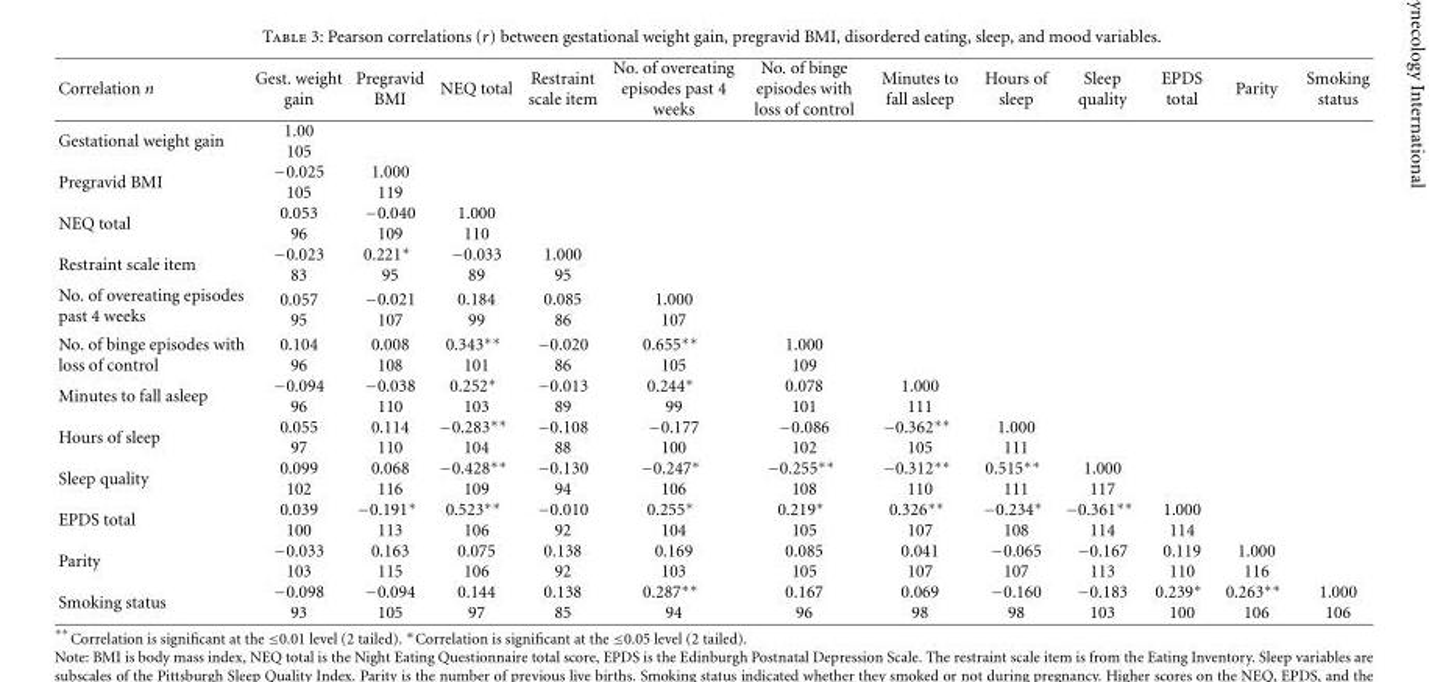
<table><thead><tr><td>Correlation n</td><td>Gest. weight gain</td><td>Pregravid BMI</td><td>NEQ total</td><td>Restraint scale item</td><td>No. of overeating episodes past 4 weeks</td><td>No. of binge episodes with loss of control</td><td>Minutes to fall asleep</td><td>Hours of sleep</td><td>Sleep quality</td><td>EPDS total</td><td>Parity</td><td>Smoking status</td></tr></thead><tbody><tr><td>Gestational weight gain</td><td>1.00 105</td><td></td><td></td><td></td><td></td><td></td><td></td><td></td><td></td><td></td><td></td><td></td></tr><tr><td>Pregravid BMI</td><td>−0.025 105</td><td>1.000 119</td><td></td><td></td><td></td><td></td><td></td><td></td><td></td><td></td><td></td><td></td></tr><tr><td>NEQ total</td><td>0.053 96</td><td>−0.040 109</td><td>1.000 110</td><td></td><td></td><td></td><td></td><td></td><td></td><td></td><td></td><td></td></tr><tr><td>Restraint scale item</td><td>−0.023 83</td><td>0.221∗ 95</td><td>−0.033 89</td><td>1.000 95</td><td></td><td></td><td></td><td></td><td></td><td></td><td></td><td></td></tr><tr><td>No. of overeating episodes past 4 weeks</td><td>0.057 95</td><td>−0.021 107</td><td>0.184 99</td><td>0.085 86</td><td>1.000 107</td><td></td><td></td><td></td><td></td><td></td><td></td><td></td></tr><tr><td>No. of binge episodes with loss of control</td><td>0.104 96</td><td>0.008 108</td><td>0.343∗∗ 101</td><td>−0.020 86</td><td>0.655∗∗ 105</td><td>1.000 109</td><td></td><td></td><td></td><td></td><td></td><td></td></tr><tr><td>Minutes to fall asleep</td><td>−0.094 96</td><td>−0.038 110</td><td>0.252∗ 103</td><td>−0.013 89</td><td>0.244∗ 99</td><td>0.078 101</td><td>1.000 111</td><td></td><td></td><td></td><td></td><td></td></tr><tr><td>Hours of sleep</td><td>0.055 97</td><td>0.114 110</td><td>−0.283∗∗ 104</td><td>−0.108 88</td><td>−0.177 100</td><td>−0.086 102</td><td>−0.362∗∗ 105</td><td>1.000 111</td><td></td><td></td><td></td><td></td></tr><tr><td>Sleep quality</td><td>0.099 102</td><td>0.068 116</td><td>−0.428∗∗ 109</td><td>−0.130 94</td><td>−0.247∗ 106</td><td>−0.255∗∗ 108</td><td>−0.312∗∗ 110</td><td>0.515∗∗ 111</td><td>1.000 117</td><td></td><td></td><td></td></tr><tr><td>EPDS total</td><td>0.039 100</td><td>−0.191∗ 113</td><td>0.523∗∗ 106</td><td>−0.010 92</td><td>0.255∗ 104</td><td>0.219∗ 105</td><td>0.326∗∗ 107</td><td>−0.234∗ 108</td><td>−0.361∗∗ 114</td><td>1.000 114</td><td></td><td></td></tr><tr><td>Parity</td><td>−0.033 103</td><td>0.163 115</td><td>0.075 106</td><td>0.138 92</td><td>0.169 103</td><td>0.085 105</td><td>0.041 107</td><td>−0.065 107</td><td>−0.167 113</td><td>0.119 110</td><td>1.000 116</td><td></td></tr><tr><td>Smoking status</td><td>−0.098 93</td><td>−0.094 105</td><td>0.144 97</td><td>0.138 85</td><td>0.287∗∗ 94</td><td>0.167 96</td><td>0.069 98</td><td>−0.160 98</td><td>−0.183 103</td><td>0.239∗ 100</td><td>0.263∗∗ 106</td><td>1.000 106</td></tr></tbody></table>